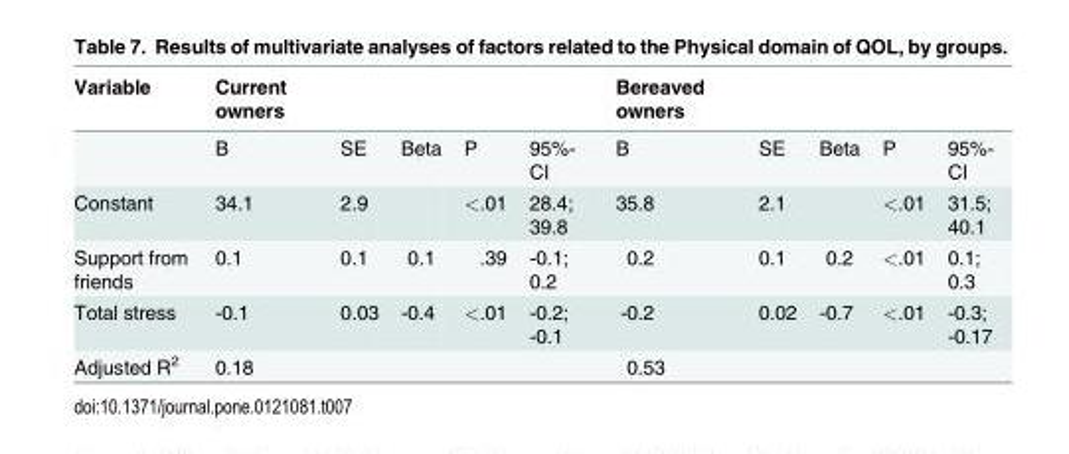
<table><thead><tr><td>Variable</td><td>Current owners</td><td></td><td></td><td></td><td></td><td>Bereaved owners</td><td></td><td></td><td></td><td></td></tr></thead><tbody><tr><td></td><td>B</td><td>SE</td><td>Beta</td><td>P</td><td>95%- CI</td><td>B</td><td>SE</td><td>Beta</td><td>P</td><td>95%- CI</td></tr><tr><td>Constant</td><td>34.1</td><td>2.9</td><td></td><td>&lt;.01</td><td>28.4; 39.8</td><td>35.8</td><td>2.1</td><td></td><td>&lt;.01</td><td>31.5; 40.1</td></tr><tr><td>Support from friends</td><td>0.1</td><td>0.1</td><td>0.1</td><td>.39</td><td>-0.1; 0.2</td><td>0.2</td><td>0.1</td><td>0.2</td><td>&lt;.01</td><td>0.1; 0.3</td></tr><tr><td>Total stress</td><td>-0.1</td><td>0.03</td><td>-0.4</td><td>&lt;.01</td><td>-0.2; -0.1</td><td>-0.2</td><td>0.02</td><td>-0.7</td><td>&lt;.01</td><td>-0.3; -0.17</td></tr><tr><td>Adjusted R<sup>2</sup></td><td>0.18</td><td></td><td></td><td></td><td></td><td>0.53</td><td></td><td></td><td></td><td></td></tr></tbody></table>